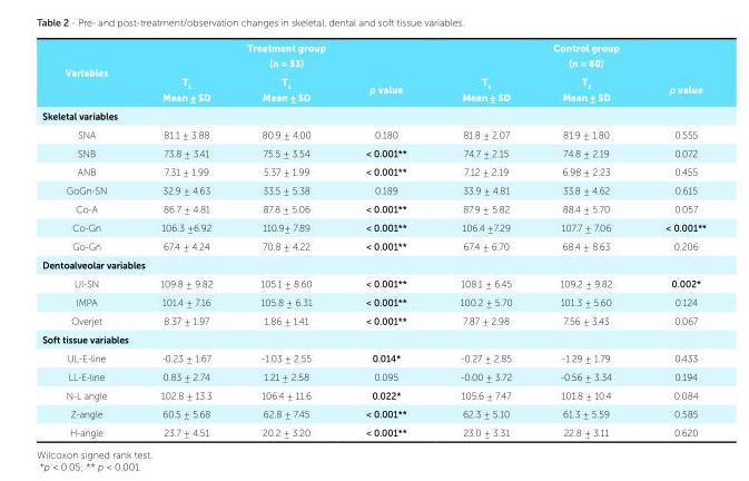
<table><tbody><tr><td rowspan="2">Variables</td><td colspan="3">Treatment group (n = 53)</td><td colspan="3">Control group (n = 60)</td></tr><tr><td>T<sub>1</sub> Mean ± SD</td><td>T<sub>2</sub> Mean ± SD</td><td>p value</td><td rowspan="2">T<sub>1</sub> Mean ± SD</td><td rowspan="2">T<sub>2</sub> Mean ± SD</td><td rowspan="2">p value</td></tr><tr><td colspan="4">Skeletal variables</td></tr><tr><td>SNA</td><td>81.1 ± 3.88</td><td>80.9 ± 4.00</td><td>0.180</td><td>81.8 ± 2.07</td><td>81.9 ± 1.80</td><td>0.555</td></tr><tr><td>SNB</td><td>73.8 ± 3.41</td><td>75.5 ± 3.54</td><td>&lt; 0.001**</td><td>74.7 ± 2.15</td><td>74.8 ± 2.19</td><td>0.072</td></tr><tr><td>ANB</td><td>7.31 ± 1.99</td><td>5.37 ± 1.99</td><td>&lt; 0.001**</td><td>7.12 ± 2.19</td><td>6.98 ± 2.23</td><td>0.455</td></tr><tr><td>GoGn-SN</td><td>32.9 ± 4.63</td><td>33.5 ± 5.38</td><td>0.189</td><td>33.9 ± 4.81</td><td>33.8 ± 4.62</td><td>0.615</td></tr><tr><td>Co-A</td><td>86.7 ± 4.81</td><td>87.8 ± 5.06</td><td>&lt; 0.001**</td><td>87.9 ± 5.82</td><td>88.4 ± 5.70</td><td>0.057</td></tr><tr><td>Co-Gn</td><td>106.3 ±6.92</td><td>110.9± 7.89</td><td>&lt; 0.001**</td><td>106.4 ±7.29</td><td>107.7 ± 7.06</td><td>&lt; 0.001**</td></tr><tr><td>Go-Gn</td><td>67.4 ± 4.24</td><td>70.8 ± 4.22</td><td>&lt; 0.001**</td><td rowspan="2">67.4 ± 6.70</td><td rowspan="2">68.4 ± 8.63</td><td rowspan="2">0.206</td></tr><tr><td colspan="4">Dentoalveolar variables</td></tr><tr><td>UI-SN</td><td>109.8 ± 9.82</td><td>105.1 ± 8.60</td><td>&lt; 0.001**</td><td>108.1 ± 6.45</td><td>109.2 ± 9.82</td><td>0.002*</td></tr><tr><td>IMPA</td><td>101.4 ± 7.16</td><td>105.8 ± 6.31</td><td>&lt; 0.001**</td><td>100.2 ± 5.70</td><td>101.3 ± 5.60</td><td>0.124</td></tr><tr><td>Overjet</td><td>8.37 ± 1.97</td><td>1.86 ± 1.41</td><td>&lt; 0.001**</td><td rowspan="2">7.87 ± 2.98</td><td rowspan="2">7.56 ± 3.43</td><td rowspan="2">0.067</td></tr><tr><td colspan="4">Soft tissue variables</td></tr><tr><td>UL-E-line</td><td>-0.23 ± 1.67</td><td>-1.03 ± 2.55</td><td>0.014*</td><td>-0.27 ± 2.85</td><td>-1.29 ± 1.79</td><td>0.433</td></tr><tr><td>LL-E-line</td><td>0.83 ± 2.74</td><td>1.21 ± 2.58</td><td>0.095</td><td>-0.00 ± 3.72</td><td>-0.56 ± 3.34</td><td>0.194</td></tr><tr><td>N-L angle</td><td>102.8 ± 13.3</td><td>106.4 ± 11.6</td><td>0.022*</td><td>105.6 ± 7.47</td><td>101.8 ± 10.4</td><td>0.084</td></tr><tr><td>Z-angle</td><td>60.5 ± 5.68</td><td>62.8 ± 7.45</td><td>&lt; 0.001**</td><td>62.3 ± 5.10</td><td>61.3 ± 5.59</td><td>0.585</td></tr><tr><td>H-angle</td><td>23.7 ± 4.51</td><td>20.2 ± 3.20</td><td>&lt; 0.001**</td><td>23.0 ± 3.31</td><td>22.8 ± 3.11</td><td>0.620</td></tr></tbody></table>